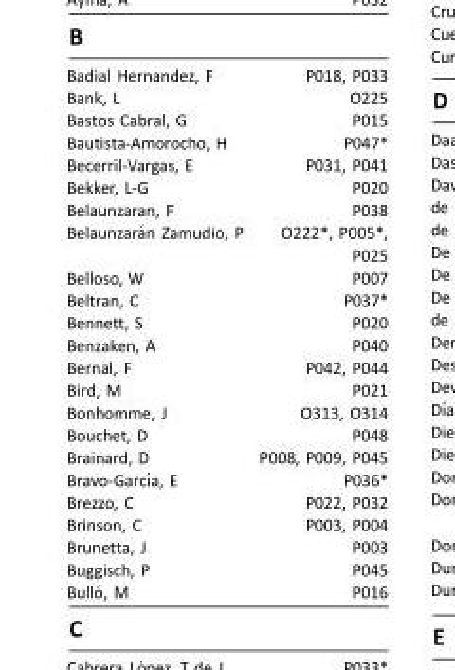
<table><tbody><tr><td>Badial Hernandez, F</td><td>P018, P033</td></tr><tr><td>Bank, L</td><td>O225</td></tr><tr><td>Bastos Cabral, G</td><td>P015</td></tr><tr><td>Bautista-Amorocho, H</td><td>P047*</td></tr><tr><td>Becerril-Vargas, E</td><td>P031, P041</td></tr><tr><td>Bekker, L-G</td><td>P020</td></tr><tr><td>Belaunzaran, F</td><td>P038</td></tr><tr><td>Belaunzara´n Zamudio, P</td><td>O222*, P005*, P025</td></tr><tr><td>Belloso, W</td><td>P007</td></tr><tr><td>Beltran, C</td><td>P037*</td></tr><tr><td>Bennett, S</td><td>P020</td></tr><tr><td>Benzaken, A</td><td>P040</td></tr><tr><td>Bernal, F</td><td>P042, P044</td></tr><tr><td>Bird, M</td><td>P021</td></tr><tr><td>Bonhomme, J</td><td>O313, O314</td></tr><tr><td>Bouchet, D</td><td>P048</td></tr><tr><td>Brainard, D</td><td>P008, P009, P045</td></tr><tr><td>Bravo-Garcı´a, E</td><td>P036*</td></tr><tr><td>Brezzo, C</td><td>P022, P032</td></tr><tr><td>Brinson, C</td><td>P003, P004</td></tr><tr><td>Brunetta, J</td><td>P003</td></tr><tr><td>Buggisch, P</td><td>P045</td></tr><tr><td>Bullo´, M</td><td>P016</td></tr></tbody></table>